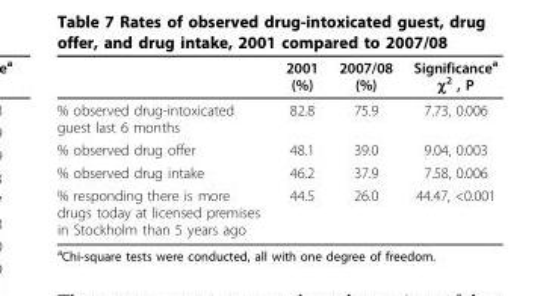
<table><thead><tr><td></td><td>2001 (%)</td><td>2007/08 (%)</td><td>Significance<sup>a</sup> χ<sup>2</sup> , P</td></tr></thead><tbody><tr><td>% observed drug-intoxicated guest last 6 months</td><td>82.8</td><td>75.9</td><td>7.73, 0.006</td></tr><tr><td>% observed drug offer</td><td>48.1</td><td>39.0</td><td>9.04, 0.003</td></tr><tr><td>% observed drug intake</td><td>46.2</td><td>37.9</td><td>7.58, 0.006</td></tr><tr><td>% responding there is more drugs today at licensed premises in Stockholm than 5 years ago</td><td>44.5</td><td>26.0</td><td>44.47, &lt;0.001</td></tr></tbody></table>